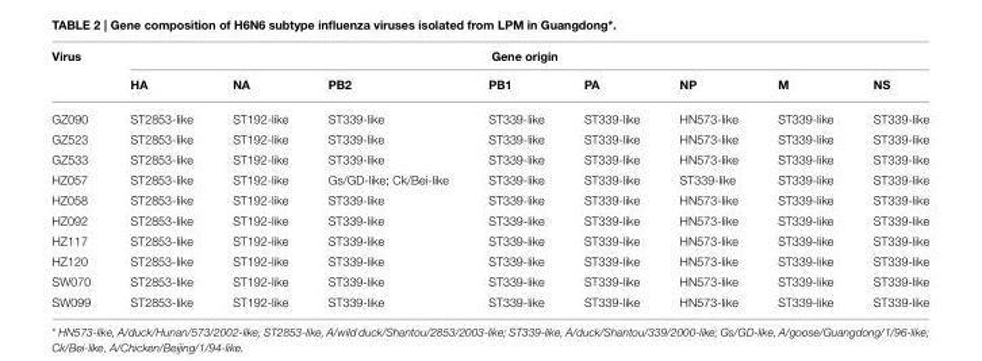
<table><thead><tr><td rowspan="2">Virus</td><td colspan="8">Gene origin</td></tr><tr><td>HA</td><td>NA</td><td>PB2</td><td>PB1</td><td>PA</td><td>NP</td><td>M</td><td>NS</td></tr></thead><tbody><tr><td>GZ090</td><td>ST2853-like</td><td>ST192-like</td><td>ST339-like</td><td>ST339-like</td><td>ST339-like</td><td>HN573-like</td><td>ST339-like</td><td>ST339-like</td></tr><tr><td>GZ523</td><td>ST2853-like</td><td>ST192-like</td><td>ST339-like</td><td>ST339-like</td><td>ST339-like</td><td>HN573-like</td><td>ST339-like</td><td>ST339-like</td></tr><tr><td>GZ533</td><td>ST2853-like</td><td>ST192-like</td><td>ST339-like</td><td>ST339-like</td><td>ST339-like</td><td>HN573-like</td><td>ST339-like</td><td>ST339-like</td></tr><tr><td>HZ057</td><td>ST2853-like</td><td>ST192-like</td><td>Gs/GD-like; Ck/Bei-like</td><td>ST339-like</td><td>ST339-like</td><td>ST339-like</td><td>ST339-like</td><td>ST339-like</td></tr><tr><td>HZ058</td><td>ST2853-like</td><td>ST192-like</td><td>ST339-like</td><td>ST339-like</td><td>ST339-like</td><td>HN573-like</td><td>ST339-like</td><td>ST339-like</td></tr><tr><td>HZ092</td><td>ST2853-like</td><td>ST192-like</td><td>ST339-like</td><td>ST339-like</td><td>ST339-like</td><td>HN573-like</td><td>ST339-like</td><td>ST339-like</td></tr><tr><td>HZ117</td><td>ST2853-like</td><td>ST192-like</td><td>ST339-like</td><td>ST339-like</td><td>ST339-like</td><td>HN573-like</td><td>ST339-like</td><td>ST339-like</td></tr><tr><td>HZ120</td><td>ST2853-like</td><td>ST192-like</td><td>ST339-like</td><td>ST339-like</td><td>ST339-like</td><td>HN573-like</td><td>ST339-like</td><td>ST339-like</td></tr><tr><td>SW070</td><td>ST2853-like</td><td>ST192-like</td><td>ST339-like</td><td>ST339-like</td><td>ST339-like</td><td>HN573-like</td><td>ST339-like</td><td>ST339-like</td></tr><tr><td>SW099</td><td>ST2853-like</td><td>ST192-like</td><td>ST339-like</td><td>ST339-like</td><td>ST339-like</td><td>HN573-like</td><td>ST339-like</td><td>ST339-like</td></tr></tbody></table>